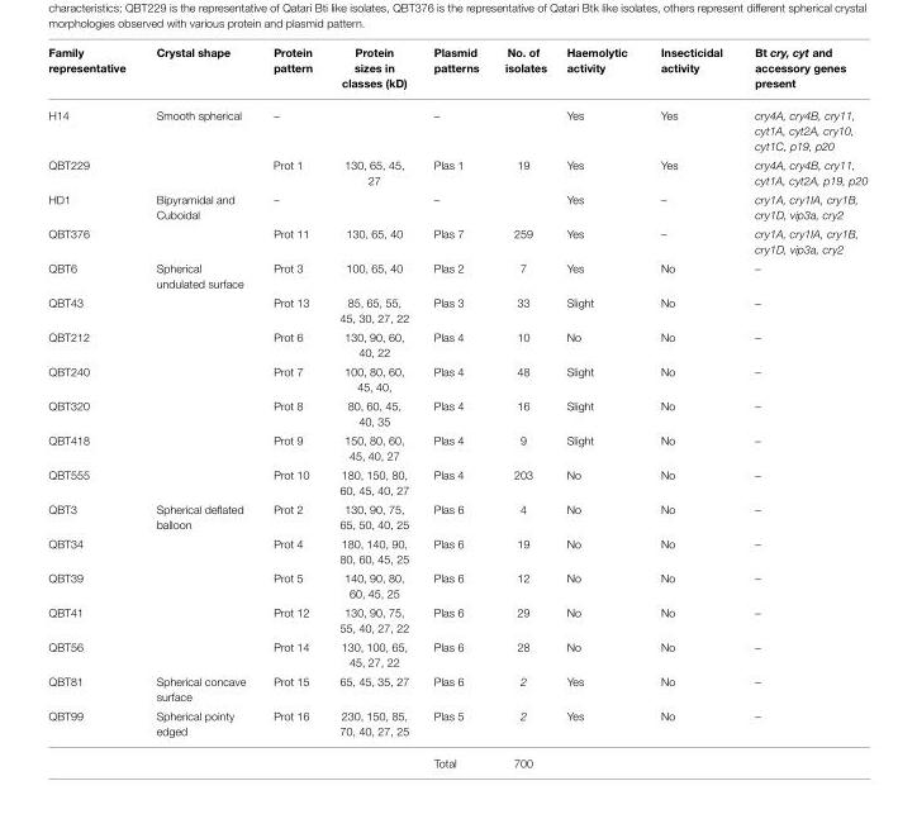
<table><thead><tr><td>Family representative</td><td>Crystal shape</td><td>Protein pattern</td><td>Protein sizes in classes (kD)</td><td>Plasmid patterns</td><td>No. of isolates</td><td>Haemolytic activity</td><td>Insecticidal activity</td><td>Bt cry, cyt and accessory genes present</td></tr></thead><tbody><tr><td>H14</td><td>Smooth spherical</td><td>–</td><td></td><td>–</td><td></td><td>Yes</td><td>Yes</td><td>cry4A, cry4B, cry11, cyt1A, cyt2A, cry10, cyt1C, p19, p20</td></tr><tr><td>QBT229</td><td></td><td>Prot 1</td><td>130, 65, 45, 27</td><td>Plas 1</td><td>19</td><td>Yes</td><td>Yes</td><td>cry4A, cry4B, cry11, cyt1A, cyt2A, p19, p20</td></tr><tr><td>HD1</td><td>Bipyramidal and Cuboidal</td><td>–</td><td></td><td>–</td><td></td><td>Yes</td><td>–</td><td>cry1A, cry1IA, cry1B, cry1D, vip3a, cry2</td></tr><tr><td>QBT376</td><td></td><td>Prot 11</td><td>130, 65, 40</td><td>Plas 7</td><td>259</td><td>Yes</td><td>–</td><td>cry1A, cry1IA, cry1B, cry1D, vip3a, cry2</td></tr><tr><td>QBT6</td><td>Spherical undulated surface</td><td>Prot 3</td><td>100, 65, 40</td><td>Plas 2</td><td>7</td><td>Yes</td><td>No</td><td>–</td></tr><tr><td>QBT43</td><td></td><td>Prot 13</td><td>85, 65, 55, 45, 30, 27, 22</td><td>Plas 3</td><td>33</td><td>Slight</td><td>No</td><td>–</td></tr><tr><td>QBT212</td><td></td><td>Prot 6</td><td>130, 90, 60, 40, 22</td><td>Plas 4</td><td>10</td><td>No</td><td>No</td><td>–</td></tr><tr><td>QBT240</td><td></td><td>Prot 7</td><td>100, 80, 60, 45, 40,</td><td>Plas 4</td><td>48</td><td>Slight</td><td>No</td><td>–</td></tr><tr><td>QBT320</td><td></td><td>Prot 8</td><td>80, 60, 45, 40, 35</td><td>Plas 4</td><td>16</td><td>Slight</td><td>No</td><td>–</td></tr><tr><td>QBT418</td><td></td><td>Prot 9</td><td>150, 80, 60, 45, 40, 27</td><td>Plas 4</td><td>9</td><td>Slight</td><td>No</td><td>–</td></tr><tr><td>QBT555</td><td></td><td>Prot 10</td><td>180, 150, 80, 60, 45, 40, 27</td><td>Plas 4</td><td>203</td><td>No</td><td>No</td><td>–</td></tr><tr><td>QBT3</td><td>Spherical deflated balloon</td><td>Prot 2</td><td>130, 90, 75, 65, 50, 40, 25</td><td>Plas 6</td><td>4</td><td>No</td><td>No</td><td>–</td></tr><tr><td>QBT34</td><td></td><td>Prot 4</td><td>180, 140, 90, 80, 60, 45, 25</td><td>Plas 6</td><td>19</td><td>No</td><td>No</td><td>–</td></tr><tr><td>QBT39</td><td></td><td>Prot 5</td><td>140, 90, 80, 60, 45, 25</td><td>Plas 6</td><td>12</td><td>No</td><td>No</td><td>–</td></tr><tr><td>QBT41</td><td></td><td>Prot 12</td><td>130, 90, 75, 55, 40, 27, 22</td><td>Plas 6</td><td>29</td><td>No</td><td>No</td><td>–</td></tr><tr><td>QBT56</td><td></td><td>Prot 14</td><td>130, 100, 65, 45, 27, 22</td><td>Plas 6</td><td>28</td><td>No</td><td>No</td><td>–</td></tr><tr><td>QBT81</td><td>Spherical concave surface</td><td>Prot 15</td><td>65, 45, 35, 27</td><td>Plas 6</td><td>2</td><td>Yes</td><td>No</td><td>–</td></tr><tr><td rowspan="2">QBT99</td><td>Spherical pointy edged</td><td>Prot 16</td><td>230, 150, 85, 70, 40, 27, 25</td><td>Plas 5</td><td>2</td><td>Yes</td><td>No</td><td>–</td></tr><tr><td></td><td></td><td></td><td>Total</td><td>700</td><td></td><td></td><td></td></tr></tbody></table>